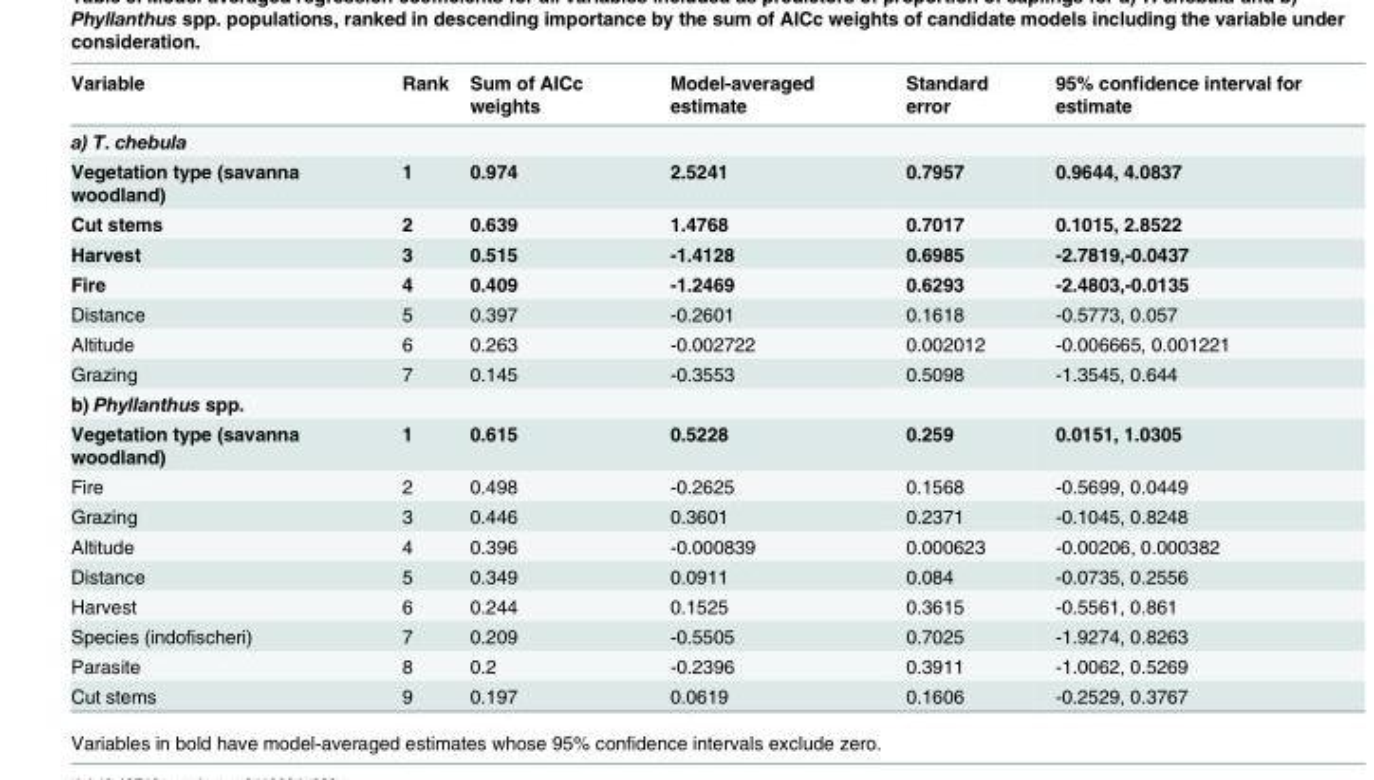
<table><thead><tr><td>Variable</td><td>Rank</td><td>Sum of AICc weights</td><td>Model-averaged estimate</td><td>Standard error</td><td>95% confidence interval for estimate</td></tr></thead><tbody><tr><td colspan="6">a) T. chebula</td></tr><tr><td>Vegetation type (savanna woodland)</td><td>1</td><td>0.974</td><td>2.5241</td><td>0.7957</td><td>0.9644, 4.0837</td></tr><tr><td>Cut stems</td><td>2</td><td>0.639</td><td>1.4768</td><td>0.7017</td><td>0.1015, 2.8522</td></tr><tr><td>Harvest</td><td>3</td><td>0.515</td><td>-1.4128</td><td>0.6985</td><td>-2.7819,-0.0437</td></tr><tr><td>Fire</td><td>4</td><td>0.409</td><td>-1.2469</td><td>0.6293</td><td>-2.4803,-0.0135</td></tr><tr><td>Distance</td><td>5</td><td>0.397</td><td>-0.2601</td><td>0.1618</td><td>-0.5773, 0.057</td></tr><tr><td>Altitude</td><td>6</td><td>0.263</td><td>-0.002722</td><td>0.002012</td><td>-0.006665, 0.001221</td></tr><tr><td>Grazing</td><td>7</td><td>0.145</td><td>-0.3553</td><td>0.5098</td><td>-1.3545, 0.644</td></tr><tr><td colspan="6">b) Phyllanthus spp.</td></tr><tr><td>Vegetation type (savanna woodland)</td><td>1</td><td>0.615</td><td>0.5228</td><td>0.259</td><td>0.0151, 1.0305</td></tr><tr><td>Fire</td><td>2</td><td>0.498</td><td>-0.2625</td><td>0.1568</td><td>-0.5699, 0.0449</td></tr><tr><td>Grazing</td><td>3</td><td>0.446</td><td>0.3601</td><td>0.2371</td><td>-0.1045, 0.8248</td></tr><tr><td>Altitude</td><td>4</td><td>0.396</td><td>-0.000839</td><td>0.000623</td><td>-0.00206, 0.000382</td></tr><tr><td>Distance</td><td>5</td><td>0.349</td><td>0.0911</td><td>0.084</td><td>-0.0735, 0.2556</td></tr><tr><td>Harvest</td><td>6</td><td>0.244</td><td>0.1525</td><td>0.3615</td><td>-0.5561, 0.861</td></tr><tr><td>Species (indofischeri)</td><td>7</td><td>0.209</td><td>-0.5505</td><td>0.7025</td><td>-1.9274, 0.8263</td></tr><tr><td>Parasite</td><td>8</td><td>0.2</td><td>-0.2396</td><td>0.3911</td><td>-1.0062, 0.5269</td></tr><tr><td>Cut stems</td><td>9</td><td>0.197</td><td>0.0619</td><td>0.1606</td><td>-0.2529, 0.3767</td></tr></tbody></table>